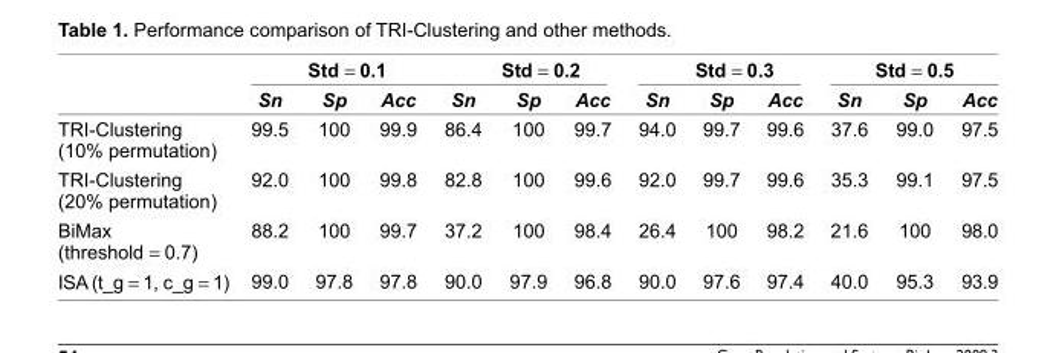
<table><thead><tr><td rowspan="2"></td><td colspan="3">Std = 0.1</td><td colspan="3">Std = 0.2</td><td colspan="3">Std = 0.3</td><td colspan="3">Std = 0.5</td></tr><tr><td>Sn</td><td>Sp</td><td>Acc</td><td>Sn</td><td>Sp</td><td>Acc</td><td>Sn</td><td>Sp</td><td>Acc</td><td>Sn</td><td>Sp</td><td>Acc</td></tr></thead><tbody><tr><td>TRI-Clustering (10% permutation)</td><td>99.5</td><td>100</td><td>99.9</td><td>86.4</td><td>100</td><td>99.7</td><td>94.0</td><td>99.7</td><td>99.6</td><td>37.6</td><td>99.0</td><td>97.5</td></tr><tr><td>TRI-Clustering (20% permutation)</td><td>92.0</td><td>100</td><td>99.8</td><td>82.8</td><td>100</td><td>99.6</td><td>92.0</td><td>99.7</td><td>99.6</td><td>35.3</td><td>99.1</td><td>97.5</td></tr><tr><td>BiMax (threshold = 0.7)</td><td>88.2</td><td>100</td><td>99.7</td><td>37.2</td><td>100</td><td>98.4</td><td>26.4</td><td>100</td><td>98.2</td><td>21.6</td><td>100</td><td>98.0</td></tr><tr><td>ISA (t_g = 1, c_g = 1)</td><td>99.0</td><td>97.8</td><td>97.8</td><td>90.0</td><td>97.9</td><td>96.8</td><td>90.0</td><td>97.6</td><td>97.4</td><td>40.0</td><td>95.3</td><td>93.9</td></tr></tbody></table>